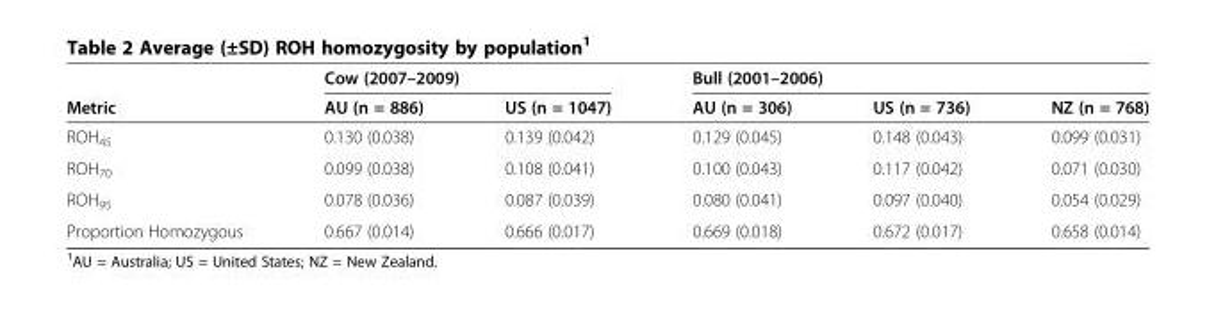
<table><thead><tr><td rowspan="2">Metric</td><td colspan="2">Cow (2007–2009)</td><td colspan="3">Bull (2001–2006)</td></tr><tr><td>AU (n = 886)</td><td>US (n = 1047)</td><td>AU (n = 306)</td><td>US (n = 736)</td><td>NZ (n = 768)</td></tr></thead><tbody><tr><td>ROH<sub>45</sub></td><td>0.130 (0.038)</td><td>0.139 (0.042)</td><td>0.129 (0.045)</td><td>0.148 (0.043)</td><td>0.099 (0.031)</td></tr><tr><td>ROH<sub>70</sub></td><td>0.099 (0.038)</td><td>0.108 (0.041)</td><td>0.100 (0.043)</td><td>0.117 (0.042)</td><td>0.071 (0.030)</td></tr><tr><td>ROH<sub>95</sub></td><td>0.078 (0.036)</td><td>0.087 (0.039)</td><td>0.080 (0.041)</td><td>0.097 (0.040)</td><td>0.054 (0.029)</td></tr><tr><td>Proportion Homozygous</td><td>0.667 (0.014)</td><td>0.666 (0.017)</td><td>0.669 (0.018)</td><td>0.672 (0.017)</td><td>0.658 (0.014)</td></tr></tbody></table>